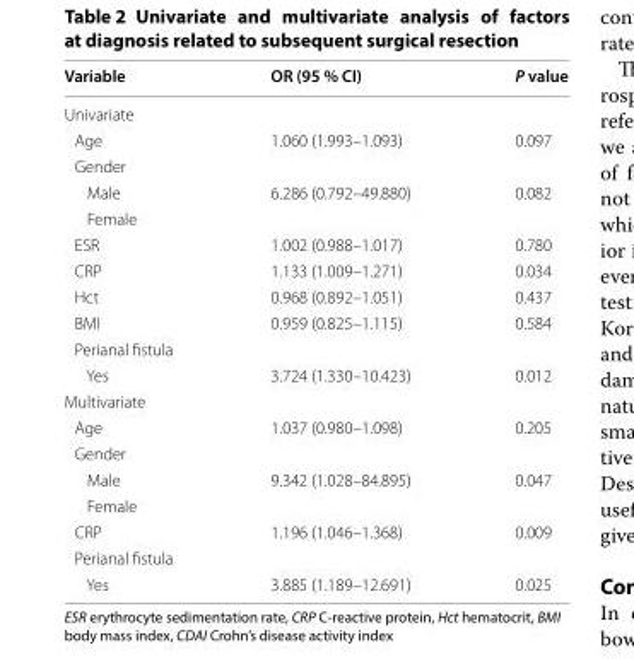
<table><thead><tr><td>Variable</td><td>OR (95 % CI)</td><td>P value</td></tr></thead><tbody><tr><td colspan="3">Univariate</td></tr><tr><td>Age</td><td>1.060 (1.993–1.093)</td><td>0.097</td></tr><tr><td colspan="3">Gender</td></tr><tr><td>Male</td><td>6.286 (0.792–49.880)</td><td>0.082</td></tr><tr><td colspan="3">Female</td></tr><tr><td>ESR</td><td>1.002 (0.988–1.017)</td><td>0.780</td></tr><tr><td>CRP</td><td>1.133 (1.009–1.271)</td><td>0.034</td></tr><tr><td>Hct</td><td>0.968 (0.892–1.051)</td><td>0.437</td></tr><tr><td>BMI</td><td>0.959 (0.825–1.115)</td><td>0.584</td></tr><tr><td colspan="3">Perianal fistula</td></tr><tr><td>Yes</td><td>3.724 (1.330–10.423)</td><td>0.012</td></tr><tr><td colspan="3">Multivariate</td></tr><tr><td>Age</td><td>1.037 (0.980–1.098)</td><td>0.205</td></tr><tr><td colspan="3">Gender</td></tr><tr><td>Male</td><td>9.342 (1.028–84.895)</td><td>0.047</td></tr><tr><td colspan="3">Female</td></tr><tr><td>CRP</td><td>1.196 (1.046–1.368)</td><td>0.009</td></tr><tr><td colspan="3">Perianal fistula</td></tr><tr><td>Yes</td><td>3.885 (1.189–12.691)</td><td>0.025</td></tr></tbody></table>